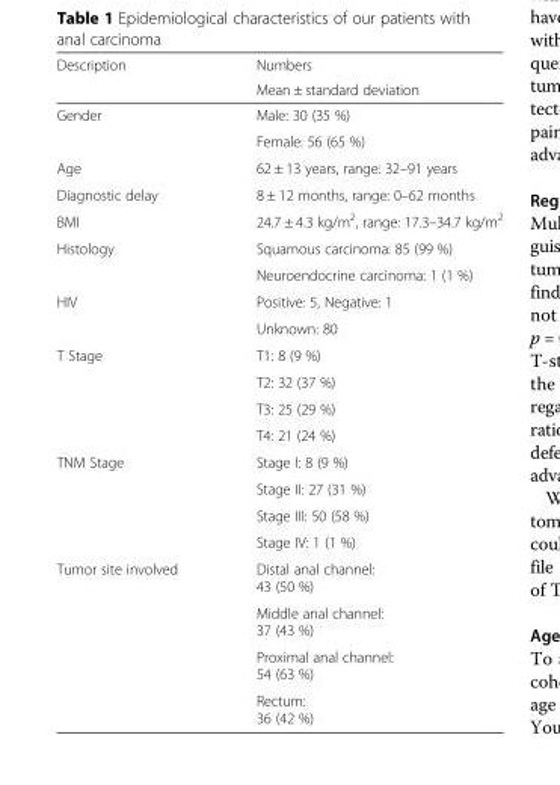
<table><thead><tr><td rowspan="2">Description</td><td rowspan="2">Numbers Mean ± standard deviation</td></tr><tr></tr></thead><tbody><tr><td rowspan="2">Gender</td><td>Male: 30 (35 %)</td></tr><tr><td>Female: 56 (65 %)</td></tr><tr><td>Age</td><td>62 ± 13 years, range: 32–91 years</td></tr><tr><td>Diagnostic delay</td><td>8 ± 12 months, range: 0–62 months</td></tr><tr><td>BMI</td><td>24.7 ± 4.3 kg/m<sup>2</sup>, range: 17.3–34.7 kg/m<sup>2</sup></td></tr><tr><td rowspan="2">Histology</td><td>Squamous carcinoma: 85 (99 %)</td></tr><tr><td>Neuroendocrine carcinoma: 1 (1 %)</td></tr><tr><td rowspan="2">HIV</td><td>Positive: 5, Negative: 1</td></tr><tr><td>Unknown: 80</td></tr><tr><td rowspan="4">T Stage</td><td>T1: 8 (9 %)</td></tr><tr><td>T2: 32 (37 %)</td></tr><tr><td>T3: 25 (29 %)</td></tr><tr><td>T4: 21 (24 %)</td></tr><tr><td rowspan="4">TNM Stage</td><td>Stage I: 8 (9 %)</td></tr><tr><td>Stage II: 27 (31 %)</td></tr><tr><td>Stage III: 50 (58 %)</td></tr><tr><td>Stage IV: 1 (1 %)</td></tr><tr><td rowspan="4">Tumor site involved</td><td>Distal anal channel: 43 (50 %)</td></tr><tr><td>Middle anal channel: 37 (43 %)</td></tr><tr><td>Proximal anal channel: 54 (63 %)</td></tr><tr><td>Rectum: 36 (42 %)</td></tr></tbody></table>